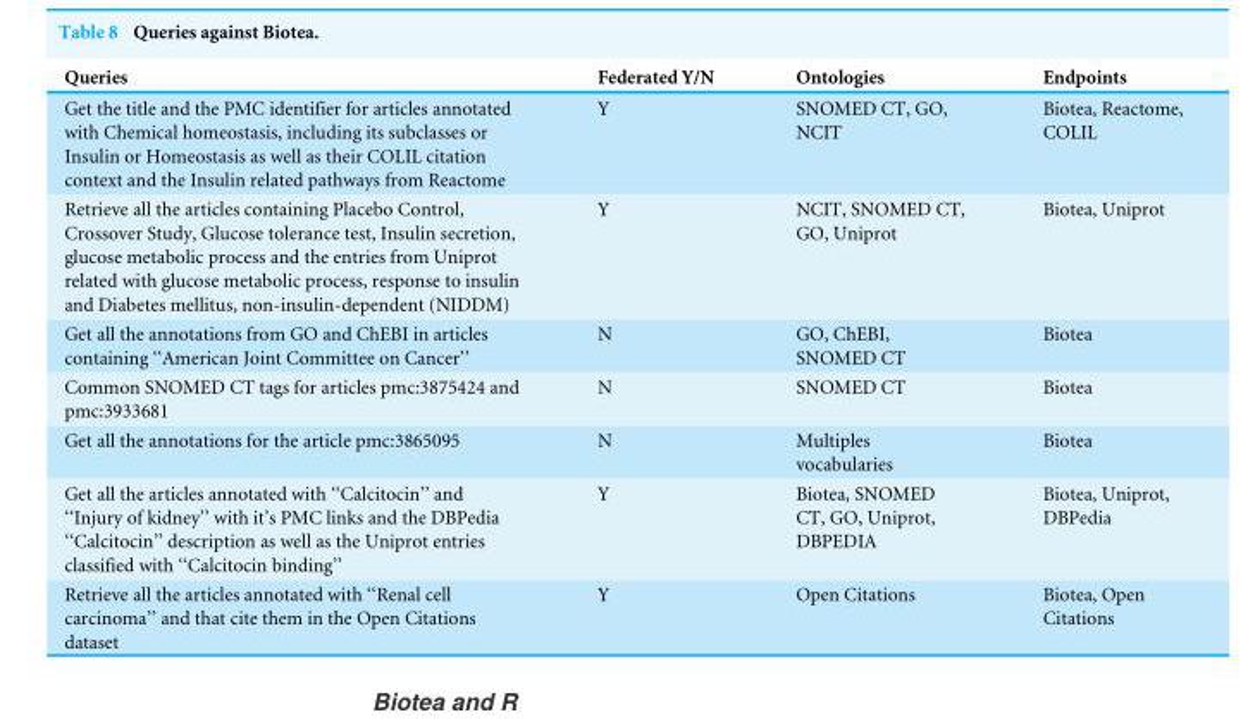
<table><thead><tr><td>Queries</td><td>Federated Y/N</td><td>Ontologies</td><td>Endpoints</td></tr></thead><tbody><tr><td>Get the title and the PMC identifier for articles annotated with Chemical homeostasis, including its subclasses or Insulin or Homeostasis as well as their COLIL citation context and the Insulin related pathways from Reactome</td><td>Y</td><td>SNOMED CT, GO, NCIT</td><td>Biotea, Reactome, COLIL</td></tr><tr><td>Retrieve all the articles containing Placebo Control, Crossover Study, Glucose tolerance test, Insulin secretion, glucose metabolic process and the entries from Uniprot related with glucose metabolic process, response to insulin and Diabetes mellitus, non-insulin-dependent (NIDDM)</td><td>Y</td><td>NCIT, SNOMED CT, GO, Uniprot</td><td>Biotea, Uniprot</td></tr><tr><td>Get all the annotations from GO and ChEBI in articles containing ‘‘American Joint Committee on Cancer’’</td><td>N</td><td>GO, ChEBI, SNOMED CT</td><td>Biotea</td></tr><tr><td>Common SNOMED CT tags for articles pmc:3875424 and pmc:3933681</td><td>N</td><td>SNOMED CT</td><td>Biotea</td></tr><tr><td>Get all the annotations for the article pmc:3865095</td><td>N</td><td>Multiples vocabularies</td><td>Biotea</td></tr><tr><td>Get all the articles annotated with ‘‘Calcitocin’’ and ‘‘Injury of kidney’’ with it’s PMC links and the DBPedia ‘‘Calcitocin’’ description as well as the Uniprot entries classified with ‘‘Calcitocin binding’’</td><td>Y</td><td>Biotea, SNOMED CT, GO, Uniprot, DBPEDIA</td><td>Biotea, Uniprot, DBPedia</td></tr><tr><td>Retrieve all the articles annotated with ‘‘Renal cell carcinoma’’ and that cite them in the Open Citations dataset</td><td>Y</td><td>Open Citations</td><td>Biotea, Open Citations</td></tr></tbody></table>